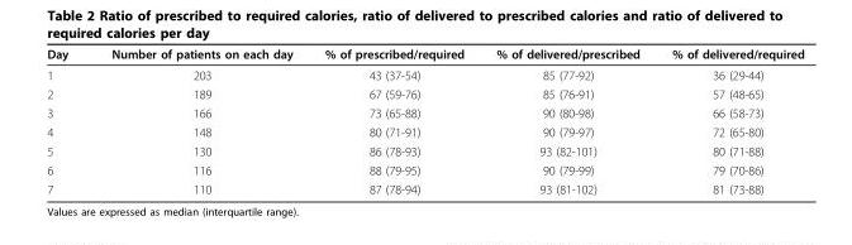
<table><thead><tr><td>Day</td><td>Number of patients on each day</td><td>% of prescribed/required</td><td>% of delivered/prescribed</td><td>% of delivered/required</td></tr></thead><tbody><tr><td>1</td><td>203</td><td>43 (37-54)</td><td>85 (77-92)</td><td>36 (29-44)</td></tr><tr><td>2</td><td>189</td><td>67 (59-76)</td><td>85 (76-91)</td><td>57 (48-65)</td></tr><tr><td>3</td><td>166</td><td>73 (65-88)</td><td>90 (80-98)</td><td>66 (58-73)</td></tr><tr><td>4</td><td>148</td><td>80 (71-91)</td><td>90 (79-97)</td><td>72 (65-80)</td></tr><tr><td>5</td><td>130</td><td>86 (78-93)</td><td>93 (82-101)</td><td>80 (71-88)</td></tr><tr><td>6</td><td>116</td><td>88 (79-95)</td><td>90 (79-99)</td><td>79 (70-86)</td></tr><tr><td>7</td><td>110</td><td>87 (78-94)</td><td>93 (81-102)</td><td>81 (73-88)</td></tr></tbody></table>